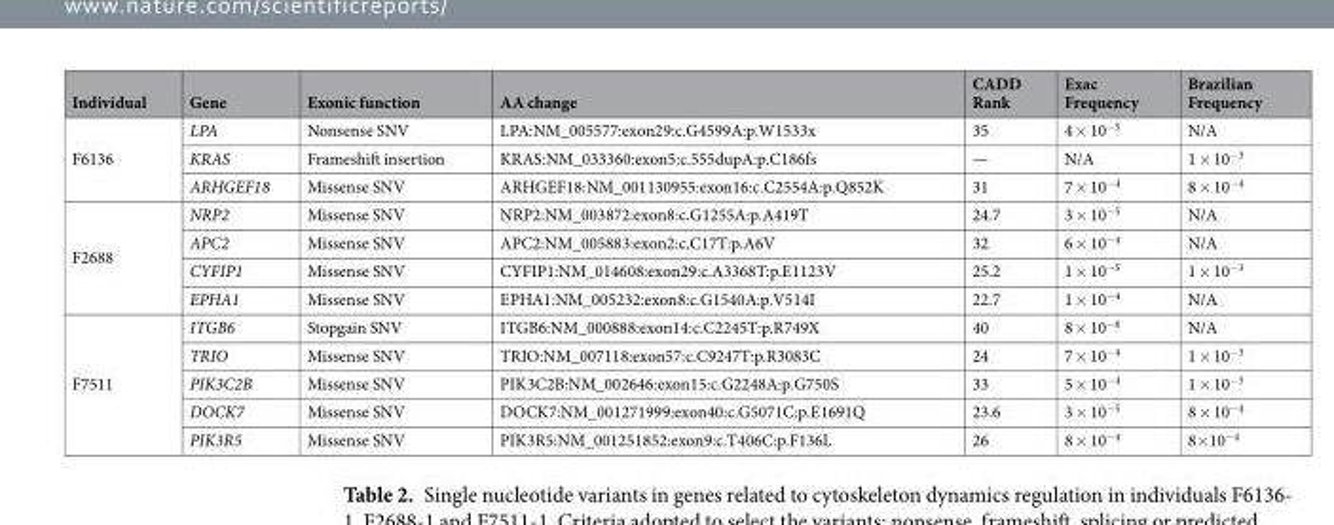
<table><thead><tr><td>Individual</td><td>Gene</td><td>Exonic function</td><td>AA change</td><td>CADD Rank</td><td>Exac Frequency</td><td>Brazilian Frequency</td></tr></thead><tbody><tr><td rowspan="3">F6136</td><td>LPA</td><td>Nonsense SNV</td><td>LPA:NM_005577:exon29:c.G4599A:p.W1533x</td><td>35</td><td>4 × 10<sup>−5</sup></td><td>N/A</td></tr><tr><td>KRAS</td><td>Frameshift insertion</td><td>KRAS:NM_033360:exon5:c.555dupA:p.C186fs</td><td>—</td><td>N/A</td><td>1 × 10<sup>−3</sup></td></tr><tr><td>ARHGEF18</td><td>Missense SNV</td><td>ARHGEF18:NM_001130955:exon16:c.C2554A:p.Q852K</td><td>31</td><td>7 × 10<sup>−4</sup></td><td>8 × 10<sup>−4</sup></td></tr><tr><td rowspan="4">F2688</td><td>NRP2</td><td>Missense SNV</td><td>NRP2:NM_003872:exon8:c.G1255A:p.A419T</td><td>24.7</td><td>3 × 10<sup>−5</sup></td><td>N/A</td></tr><tr><td>APC2</td><td>Missense SNV</td><td>APC2:NM_005883:exon2:c.C17T:p.A6V</td><td>32</td><td>6 × 10<sup>−4</sup></td><td>N/A</td></tr><tr><td>CYFIP1</td><td>Missense SNV</td><td>CYFIP1:NM_014608:exon29:c.A3368T:p.E1123V</td><td>25.2</td><td>1 × 10<sup>−5</sup></td><td>1 × 10<sup>−3</sup></td></tr><tr><td>EPHA1</td><td>Missense SNV</td><td>EPHA1:NM_005232:exon8:c.G1540A:p.V514I</td><td>22.7</td><td>1 × 10<sup>−4</sup></td><td>N/A</td></tr><tr><td rowspan="5">F7511</td><td>ITGB6</td><td>Stopgain SNV</td><td>ITGB6:NM_000888:exon14:c.C2245T:p.R749X</td><td>40</td><td>8 × 10<sup>−6</sup></td><td>N/A</td></tr><tr><td>TRIO</td><td>Missense SNV</td><td>TRIO:NM_007118:exon57:c.C9247T:p.R3083C</td><td>24</td><td>7 × 10<sup>−4</sup></td><td>1 × 10<sup>−3</sup></td></tr><tr><td>PIK3C2B</td><td>Missense SNV</td><td>PIK3C2B:NM_002646:exon15:c.G2248A:p.G750S</td><td>33</td><td>5 × 10<sup>−4</sup></td><td>1 × 10<sup>−3</sup></td></tr><tr><td>DOCK7</td><td>Missense SNV</td><td>DOCK7:NM_001271999:exon40:c.G5071C:p.E1691Q</td><td>23.6</td><td>3 × 10<sup>−5</sup></td><td>8 × 10<sup>−4</sup></td></tr><tr><td>PIK3R5</td><td>Missense SNV</td><td>PIK3R5:NM_001251852:exon9:c.T406C:p.F136L</td><td>26</td><td>8 × 10<sup>−4</sup></td><td>8×10<sup>−4</sup></td></tr></tbody></table>